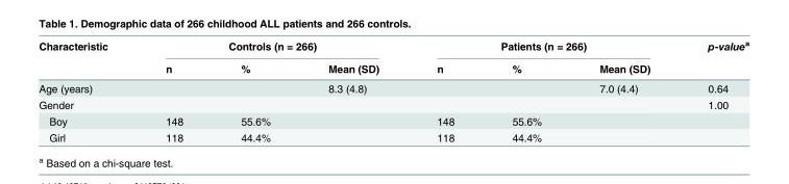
<table><thead><tr><td rowspan="2">Characteristic</td><td colspan="3">Controls (n = 266)</td><td colspan="3">Patients (n = 266)</td><td rowspan="2">p-value<sup>a</sup></td></tr><tr><td>n</td><td>%</td><td>Mean (SD)</td><td>n</td><td>%</td><td>Mean (SD)</td></tr></thead><tbody><tr><td>Age (years)</td><td></td><td></td><td>8.3 (4.8)</td><td></td><td></td><td>7.0 (4.4)</td><td>0.64</td></tr><tr><td>Gender</td><td></td><td></td><td></td><td></td><td></td><td></td><td>1.00</td></tr><tr><td>Boy</td><td>148</td><td>55.6%</td><td></td><td>148</td><td>55.6%</td><td></td><td></td></tr><tr><td>Girl</td><td>118</td><td>44.4%</td><td></td><td>118</td><td>44.4%</td><td></td><td></td></tr></tbody></table>